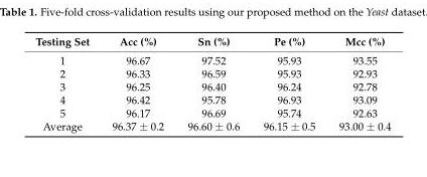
<table><thead><tr><td>Testing Set</td><td>Acc (%)</td><td>Sn (%)</td><td>Pe (%)</td><td>Mcc (%)</td></tr></thead><tbody><tr><td>1</td><td>96.67</td><td>97.52</td><td>95.93</td><td>93.55</td></tr><tr><td>2</td><td>96.33</td><td>96.59</td><td>95.93</td><td>92.93</td></tr><tr><td>3</td><td>96.25</td><td>96.40</td><td>96.24</td><td>92.78</td></tr><tr><td>4</td><td>96.42</td><td>95.78</td><td>96.93</td><td>93.09</td></tr><tr><td>5</td><td>96.17</td><td>96.69</td><td>95.74</td><td>92.63</td></tr><tr><td>Average</td><td>96.37 ± 0.2</td><td>96.60 ± 0.6</td><td>96.15 ± 0.5</td><td>93.00 ± 0.4</td></tr></tbody></table>